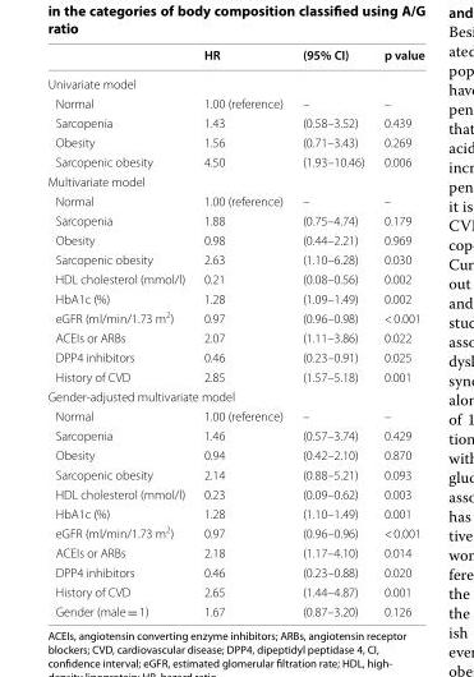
<table><thead><tr><td></td><td>HR</td><td>(95% CI)</td><td>p value</td></tr></thead><tbody><tr><td colspan="4">Univariate model</td></tr><tr><td>Normal</td><td>1.00 (reference)</td><td>–</td><td>–</td></tr><tr><td>Sarcopenia</td><td>1.43</td><td>(0.58–3.52)</td><td>0.439</td></tr><tr><td>Obesity</td><td>1.56</td><td>(0.71–3.43)</td><td>0.269</td></tr><tr><td>Sarcopenic obesity</td><td>4.50</td><td>(1.93–10.46)</td><td>0.006</td></tr><tr><td colspan="4">Multivariate model</td></tr><tr><td>Normal</td><td>1.00 (reference)</td><td>–</td><td>–</td></tr><tr><td>Sarcopenia</td><td>1.88</td><td>(0.75–4.74)</td><td>0.179</td></tr><tr><td>Obesity</td><td>0.98</td><td>(0.44–2.21)</td><td>0.969</td></tr><tr><td>Sarcopenic obesity</td><td>2.63</td><td>(1.10–6.28)</td><td>0.030</td></tr><tr><td>HDL cholesterol (mmol/l)</td><td>0.21</td><td>(0.08–0.56)</td><td>0.002</td></tr><tr><td>HbA1c (%)</td><td>1.28</td><td>(1.09–1.49)</td><td>0.002</td></tr><tr><td>eGFR (ml/min/1.73 m<sup>2</sup>)</td><td>0.97</td><td>(0.96–0.98)</td><td>&lt; 0.001</td></tr><tr><td>ACEIs or ARBs</td><td>2.07</td><td>(1.11–3.86)</td><td>0.022</td></tr><tr><td>DPP4 inhibitors</td><td>0.46</td><td>(0.23–0.91)</td><td>0.025</td></tr><tr><td>History of CVD</td><td>2.85</td><td>(1.57–5.18)</td><td>0.001</td></tr><tr><td colspan="4">Gender-adjusted multivariate model</td></tr><tr><td>Normal</td><td>1.00 (reference)</td><td>–</td><td>–</td></tr><tr><td>Sarcopenia</td><td>1.46</td><td>(0.57–3.74)</td><td>0.429</td></tr><tr><td>Obesity</td><td>0.94</td><td>(0.42–2.10)</td><td>0.870</td></tr><tr><td>Sarcopenic obesity</td><td>2.14</td><td>(0.88–5.21)</td><td>0.093</td></tr><tr><td>HDL cholesterol (mmol/l)</td><td>0.23</td><td>(0.09–0.62)</td><td>0.003</td></tr><tr><td>HbA1c (%)</td><td>1.28</td><td>(1.10–1.49)</td><td>0.001</td></tr><tr><td>eGFR (ml/min/1.73 m<sup>2</sup>)</td><td>0.97</td><td>(0.96–0.96)</td><td>&lt; 0.001</td></tr><tr><td>ACEIs or ARBs</td><td>2.18</td><td>(1.17–4.10)</td><td>0.014</td></tr><tr><td>DPP4 inhibitors</td><td>0.46</td><td>(0.23–0.88)</td><td>0.020</td></tr><tr><td>History of CVD</td><td>2.65</td><td>(1.44–4.87)</td><td>0.001</td></tr><tr><td>Gender (male = 1)</td><td>1.67</td><td>(0.87–3.20)</td><td>0.126</td></tr></tbody></table>